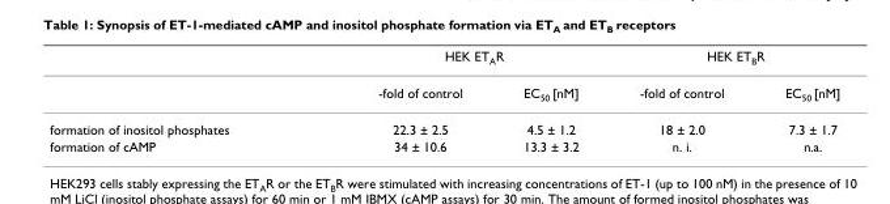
<table><thead><tr><td rowspan="2"></td><td colspan="2">HEK ET<sub>A</sub>R</td><td colspan="2">HEK ET<sub>B</sub>R</td></tr><tr><td>-fold of control</td><td>EC<sub>50</sub> [nM]</td><td>-fold of control</td><td>EC<sub>50</sub> [nM]</td></tr></thead><tbody><tr><td>formation of inositol phosphates</td><td>22.3 ± 2.5</td><td>4.5 ± 1.2</td><td>18 ± 2.0</td><td>7.3 ± 1.7</td></tr><tr><td>formation of cAMP</td><td>34 ± 10.6</td><td>13.3 ± 3.2</td><td>n. i.</td><td>n.a.</td></tr></tbody></table>